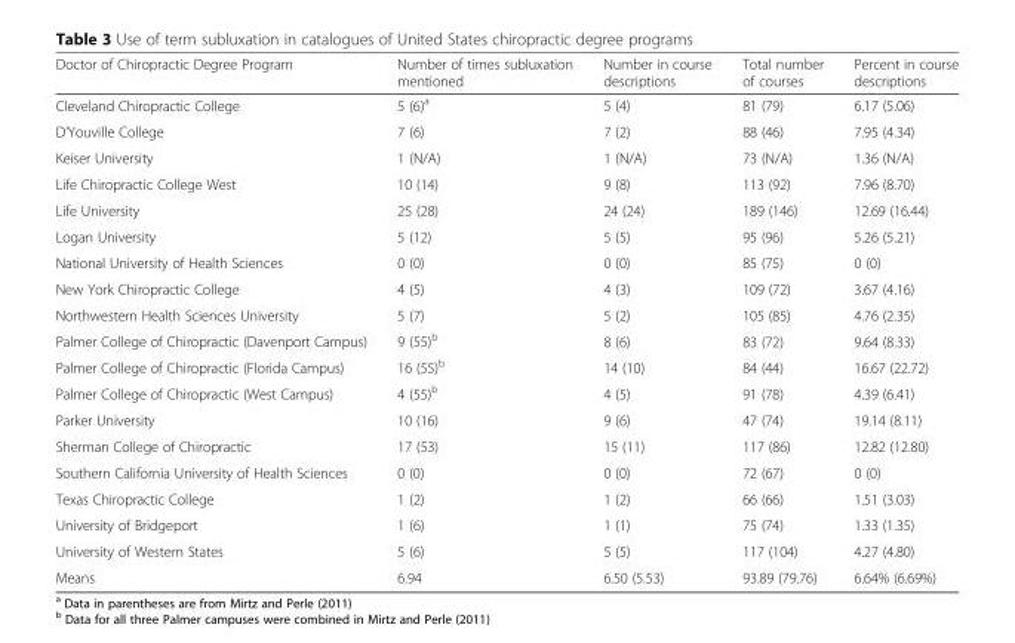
<table><thead><tr><td>Doctor of Chiropractic Degree Program</td><td>Number of times subluxation mentioned</td><td>Number in course descriptions</td><td>Total number of courses</td><td>Percent in course descriptions</td></tr></thead><tbody><tr><td>Cleveland Chiropractic College</td><td>5 (6)<sup>a</sup></td><td>5 (4)</td><td>81 (79)</td><td>6.17 (5.06)</td></tr><tr><td>D’Youville College</td><td>7 (6)</td><td>7 (2)</td><td>88 (46)</td><td>7.95 (4.34)</td></tr><tr><td>Keiser University</td><td>1 (N/A)</td><td>1 (N/A)</td><td>73 (N/A)</td><td>1.36 (N/A)</td></tr><tr><td>Life Chiropractic College West</td><td>10 (14)</td><td>9 (8)</td><td>113 (92)</td><td>7.96 (8.70)</td></tr><tr><td>Life University</td><td>25 (28)</td><td>24 (24)</td><td>189 (146)</td><td>12.69 (16.44)</td></tr><tr><td>Logan University</td><td>5 (12)</td><td>5 (5)</td><td>95 (96)</td><td>5.26 (5.21)</td></tr><tr><td>National University of Health Sciences</td><td>0 (0)</td><td>0 (0)</td><td>85 (75)</td><td>0 (0)</td></tr><tr><td>New York Chiropractic College</td><td>4 (5)</td><td>4 (3)</td><td>109 (72)</td><td>3.67 (4.16)</td></tr><tr><td>Northwestern Health Sciences University</td><td>5 (7)</td><td>5 (2)</td><td>105 (85)</td><td>4.76 (2.35)</td></tr><tr><td>Palmer College of Chiropractic (Davenport Campus)</td><td>9 (55)<sup>b</sup></td><td>8 (6)</td><td>83 (72)</td><td>9.64 (8.33)</td></tr><tr><td>Palmer College of Chiropractic (Florida Campus)</td><td>16 (55)<sup>b</sup></td><td>14 (10)</td><td>84 (44)</td><td>16.67 (22.72)</td></tr><tr><td>Palmer College of Chiropractic (West Campus)</td><td>4 (55)<sup>b</sup></td><td>4 (5)</td><td>91 (78)</td><td>4.39 (6.41)</td></tr><tr><td>Parker University</td><td>10 (16)</td><td>9 (6)</td><td>47 (74)</td><td>19.14 (8.11)</td></tr><tr><td>Sherman College of Chiropractic</td><td>17 (53)</td><td>15 (11)</td><td>117 (86)</td><td>12.82 (12.80)</td></tr><tr><td>Southern California University of Health Sciences</td><td>0 (0)</td><td>0 (0)</td><td>72 (67)</td><td>0 (0)</td></tr><tr><td>Texas Chiropractic College</td><td>1 (2)</td><td>1 (2)</td><td>66 (66)</td><td>1.51 (3.03)</td></tr><tr><td>University of Bridgeport</td><td>1 (6)</td><td>1 (1)</td><td>75 (74)</td><td>1.33 (1.35)</td></tr><tr><td>University of Western States</td><td>5 (6)</td><td>5 (5)</td><td>117 (104)</td><td>4.27 (4.80)</td></tr><tr><td>Means</td><td>6.94</td><td>6.50 (5.53)</td><td>93.89 (79.76)</td><td>6.64% (6.69%)</td></tr></tbody></table>